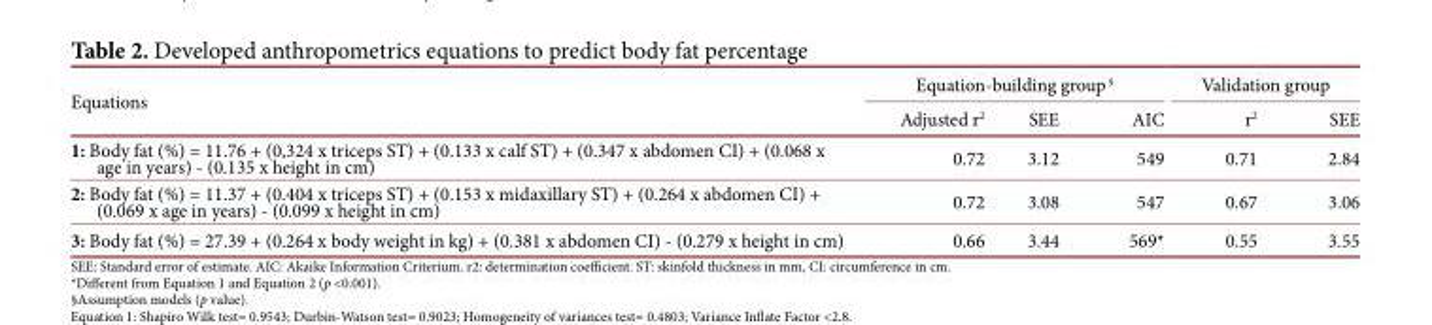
<table><tbody><tr><td rowspan="2">Equations</td><td colspan="3">Equation-building group <sup>§</sup></td><td colspan="2">Validation group</td></tr><tr><td>Adjusted r<sup>2</sup></td><td>SEE</td><td>AIC</td><td>r<sup>2</sup></td><td>SEE</td></tr><tr><td>1: Body fat (%) = 11.76 + (0,324 x triceps ST) + (0.133 x calf ST) + (0.347 x abdomen CI) + (0.068 x age in years) - (0.135 x height in cm)</td><td>0.72</td><td>3.12</td><td>549</td><td>0.71</td><td>2.84</td></tr><tr><td>2: Body fat (%) = 11.37 + (0.404 x triceps ST) + (0.153 x midaxillary ST) + (0.264 x abdomen CI) + (0.069 x age in years) - (0.099 x height in cm)</td><td>0.72</td><td>3.08</td><td>547</td><td>0.67</td><td>3.06</td></tr><tr><td>3: Body fat (%) = 27.39 + (0.264 x body weight in kg) + (0.381 x abdomen CI) - (0.279 x height in cm)</td><td>0.66</td><td>3.44</td><td>569*</td><td>0.55</td><td>3.55</td></tr></tbody></table>